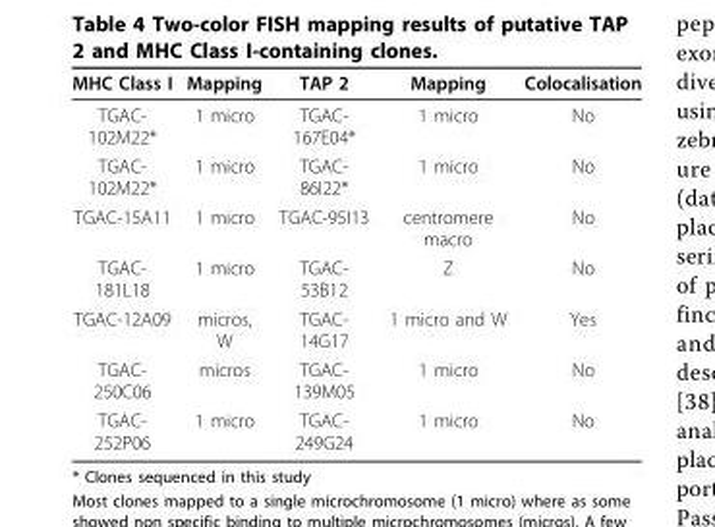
<table><thead><tr><td>MHC Class I</td><td>Mapping</td><td>TAP 2</td><td>Mapping</td><td>Colocalisation</td></tr></thead><tbody><tr><td>TGAC- 102M22*</td><td>1 micro</td><td>TGAC- 167E04*</td><td>1 micro</td><td>No</td></tr><tr><td>TGAC- 102M22*</td><td>1 micro</td><td>TGAC- 86I22*</td><td>1 micro</td><td>No</td></tr><tr><td>TGAC-15A11</td><td>1 micro</td><td>TGAC-95I13</td><td>centromere macro</td><td>No</td></tr><tr><td>TGAC- 181L18</td><td>1 micro</td><td>TGAC- 53B12</td><td>Z</td><td>No</td></tr><tr><td>TGAC-12A09</td><td>micros, W</td><td>TGAC- 14G17</td><td>1 micro and W</td><td>Yes</td></tr><tr><td>TGAC- 250C06</td><td>micros</td><td>TGAC- 139M05</td><td>1 micro</td><td>No</td></tr><tr><td>TGAC- 252P06</td><td>1 micro</td><td>TGAC- 249G24</td><td>1 micro</td><td>No</td></tr></tbody></table>